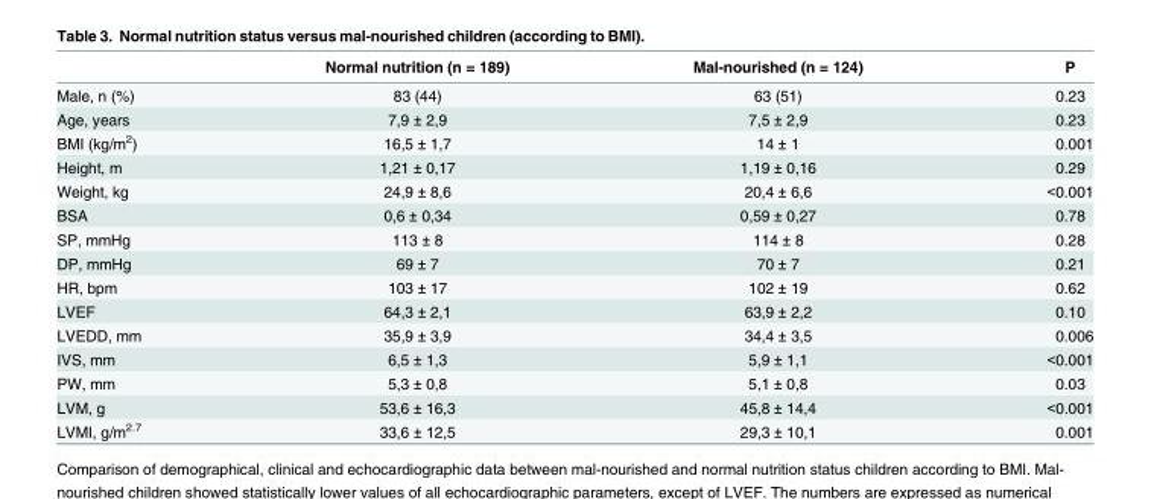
<table><thead><tr><td></td><td>Normal nutrition (n = 189)</td><td>Mal-nourished (n = 124)</td><td>P</td></tr></thead><tbody><tr><td>Male, n (%)</td><td>83 (44)</td><td>63 (51)</td><td>0.23</td></tr><tr><td>Age, years</td><td>7,9 ± 2,9</td><td>7,5 ± 2,9</td><td>0.23</td></tr><tr><td>BMI (kg/m<sup>2</sup>)</td><td>16,5 ± 1,7</td><td>14 ± 1</td><td>0.001</td></tr><tr><td>Height, m</td><td>1,21 ± 0,17</td><td>1,19 ± 0,16</td><td>0.29</td></tr><tr><td>Weight, kg</td><td>24,9 ± 8,6</td><td>20,4 ± 6,6</td><td>&lt;0.001</td></tr><tr><td>BSA</td><td>0,6 ± 0,34</td><td>0,59 ± 0,27</td><td>0.78</td></tr><tr><td>SP, mmHg</td><td>113 ± 8</td><td>114 ± 8</td><td>0.28</td></tr><tr><td>DP, mmHg</td><td>69 ± 7</td><td>70 ± 7</td><td>0.21</td></tr><tr><td>HR, bpm</td><td>103 ± 17</td><td>102 ± 19</td><td>0.62</td></tr><tr><td>LVEF</td><td>64,3 ± 2,1</td><td>63,9 ± 2,2</td><td>0.10</td></tr><tr><td>LVEDD, mm</td><td>35,9 ± 3,9</td><td>34,4 ± 3,5</td><td>0.006</td></tr><tr><td>IVS, mm</td><td>6,5 ± 1,3</td><td>5,9 ± 1,1</td><td>&lt;0.001</td></tr><tr><td>PW, mm</td><td>5,3 ± 0,8</td><td>5,1 ± 0,8</td><td>0.03</td></tr><tr><td>LVM, g</td><td>53,6 ± 16,3</td><td>45,8 ± 14,4</td><td>&lt;0.001</td></tr><tr><td>LVMI, g/m<sup>2.7</sup></td><td>33,6 ± 12,5</td><td>29,3 ± 10,1</td><td>0.001</td></tr></tbody></table>